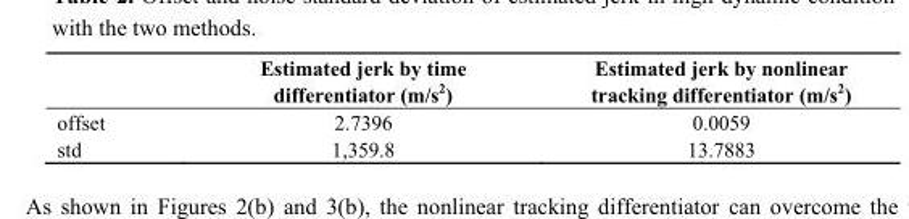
<table><thead><tr><td></td><td>Estimated jerk by time differentiator (m/s<sup>2</sup>)</td><td>Estimated jerk by nonlinear tracking differentiator (m/s<sup>2</sup>)</td></tr></thead><tbody><tr><td>offset</td><td>2.7396</td><td>0.0059</td></tr><tr><td>std</td><td>1,359.8</td><td>13.7883</td></tr></tbody></table>